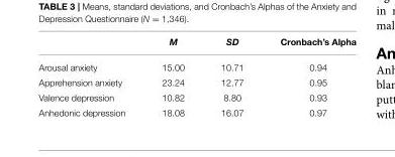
<table><thead><tr><td></td><td>M</td><td>SD</td><td>Cronbach’s Alpha</td></tr></thead><tbody><tr><td>Arousal anxiety</td><td>15.00</td><td>10.71</td><td>0.94</td></tr><tr><td>Apprehension anxiety</td><td>23.24</td><td>12.77</td><td>0.95</td></tr><tr><td>Valence depression</td><td>10.82</td><td>8.80</td><td>0.93</td></tr><tr><td>Anhedonic depression</td><td>18.08</td><td>16.07</td><td>0.97</td></tr></tbody></table>